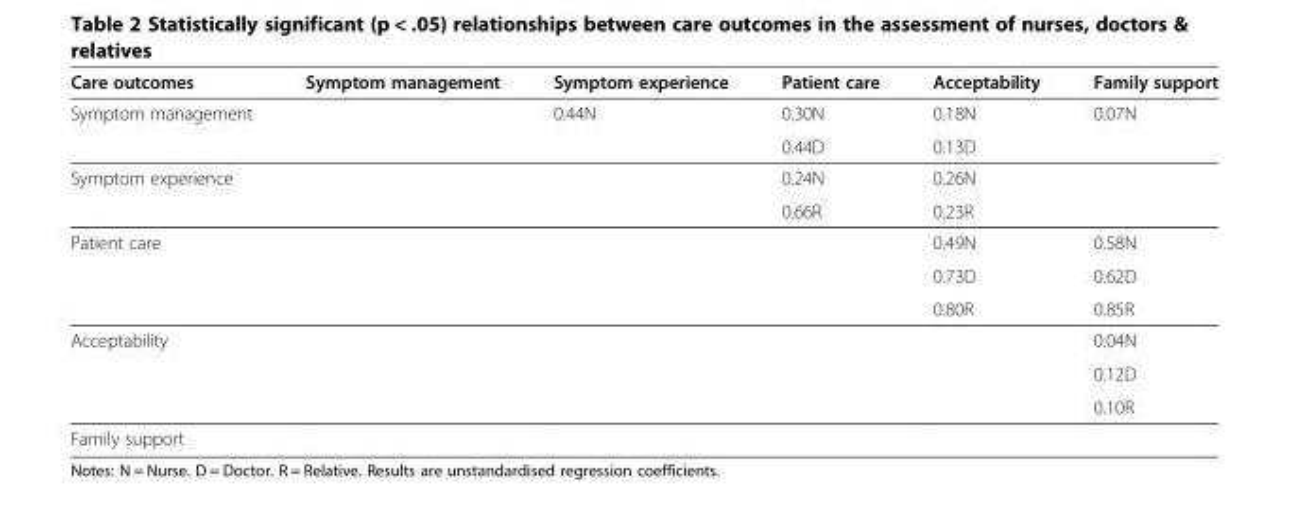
<table><tbody><tr><td>Care outcomes</td><td>Symptom management</td><td>Symptom experience</td><td>Patient care</td><td>Acceptability</td><td>Family support</td></tr><tr><td rowspan="2">Symptom management</td><td></td><td>0.44N</td><td>0.30N</td><td>0.18N</td><td>0.07N</td></tr><tr><td></td><td></td><td>0.44D</td><td>0.13D</td><td></td></tr><tr><td rowspan="2">Symptom experience</td><td></td><td></td><td>0.24N</td><td>0.26N</td><td></td></tr><tr><td></td><td></td><td>0.66R</td><td>0.23R</td><td></td></tr><tr><td rowspan="3">Patient care</td><td></td><td></td><td></td><td>0.49N</td><td>0.58N</td></tr><tr><td></td><td></td><td></td><td>0.73D</td><td>0.62D</td></tr><tr><td></td><td></td><td></td><td>0.80R</td><td>0.85R</td></tr><tr><td rowspan="3">Acceptability</td><td></td><td></td><td></td><td></td><td>0.04N</td></tr><tr><td></td><td></td><td></td><td></td><td>0.12D</td></tr><tr><td></td><td></td><td></td><td></td><td>0.10R</td></tr><tr><td>Family support</td><td></td><td></td><td></td><td></td><td></td></tr></tbody></table>